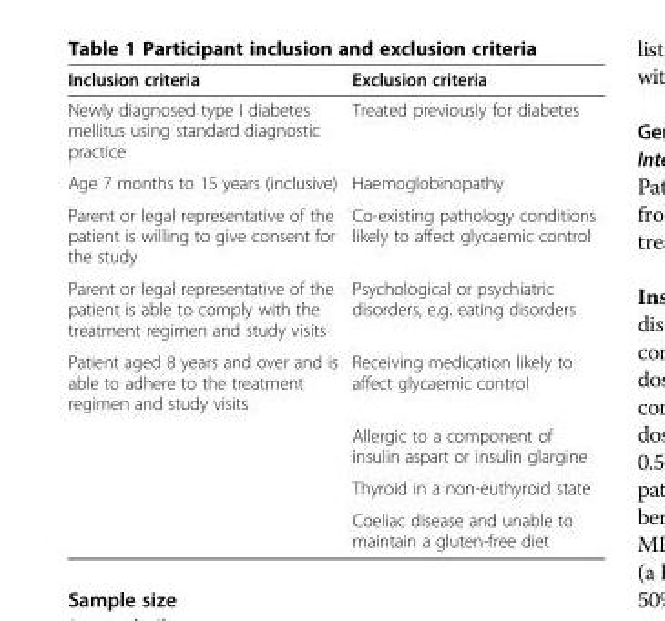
<table><thead><tr><td>Inclusion criteria</td><td>Exclusion criteria</td></tr></thead><tbody><tr><td>Newly diagnosed type I diabetes mellitus using standard diagnostic practice</td><td>Treated previously for diabetes</td></tr><tr><td>Age 7 months to 15 years (inclusive)</td><td>Haemoglobinopathy</td></tr><tr><td>Parent or legal representative of the patient is willing to give consent for the study</td><td>Co-existing pathology conditions likely to affect glycaemic control</td></tr><tr><td>Parent or legal representative of the patient is able to comply with the treatment regimen and study visits</td><td>Psychological or psychiatric disorders, e.g. eating disorders</td></tr><tr><td rowspan="4">Patient aged 8 years and over and is able to adhere to the treatment regimen and study visits</td><td>Receiving medication likely to affect glycaemic control</td></tr><tr><td>Allergic to a component of insulin aspart or insulin glargine</td></tr><tr><td>Thyroid in a non-euthyroid state</td></tr><tr><td>Coeliac disease and unable to maintain a gluten-free diet</td></tr></tbody></table>